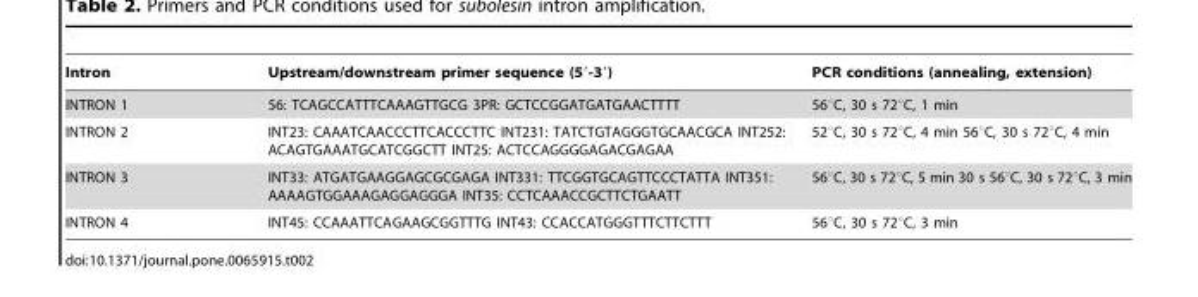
<table><thead><tr><td>Intron</td><td>Upstream/downstream primer sequence (5′-3′)</td><td>PCR conditions (annealing, extension)</td></tr></thead><tbody><tr><td>INTRON 1</td><td>56: TCAGCCATTTCAAAGTTGCG 3PR: GCTCCGGATGATGAACTTTT</td><td>56°C, 30 s 72°C, 1 min</td></tr><tr><td>INTRON 2</td><td>INT23: CAAATCAACCCTTCACCCTTC INT231: TATCTGTAGGGTGCAACGCA INT252: ACAGTGAAATGCATCGGCTT INT25: ACTCCAGGGGAGACGAGAA</td><td>52°C, 30 s 72°C, 4 min 56°C, 30 s 72°C, 4 min</td></tr><tr><td>INTRON 3</td><td>INT33: ATGATGAAGGAGCGCGAGA INT331: TTCGGTGCAGTTCCCTATTA INT351: AAAAGTGGAAAGAGGAGGGA INT35: CCTCAAACCGCTTCTGAATT</td><td>56°C, 30 s 72°C, 5 min 30 s 56°C, 30 s 72°C, 3 min</td></tr><tr><td>INTRON 4</td><td>INT45: CCAAATTCAGAAGCGGTTTG INT43: CCACCATGGGTTTCTTCTTT</td><td>56°C, 30 s 72°C, 3 min</td></tr></tbody></table>